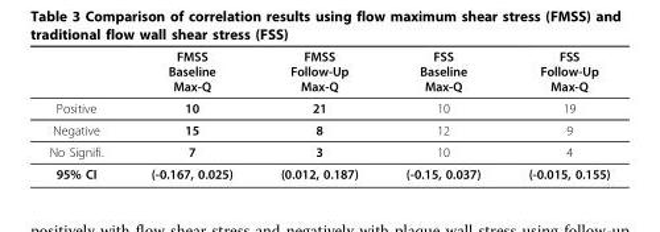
<table><thead><tr><td></td><td>FMSS Baseline Max-Q</td><td>FMSS Follow-Up Max-Q</td><td>FSS Baseline Max-Q</td><td>FSS Follow-Up Max-Q</td></tr></thead><tbody><tr><td>Positive</td><td>10</td><td>21</td><td>10</td><td>19</td></tr><tr><td>Negative</td><td>15</td><td>8</td><td>12</td><td>9</td></tr><tr><td>No Signifi.</td><td>7</td><td>3</td><td>10</td><td>4</td></tr><tr><td>95% CI</td><td>(-0.167, 0.025)</td><td>(0.012, 0.187)</td><td>(-0.15, 0.037)</td><td>(-0.015, 0.155)</td></tr></tbody></table>